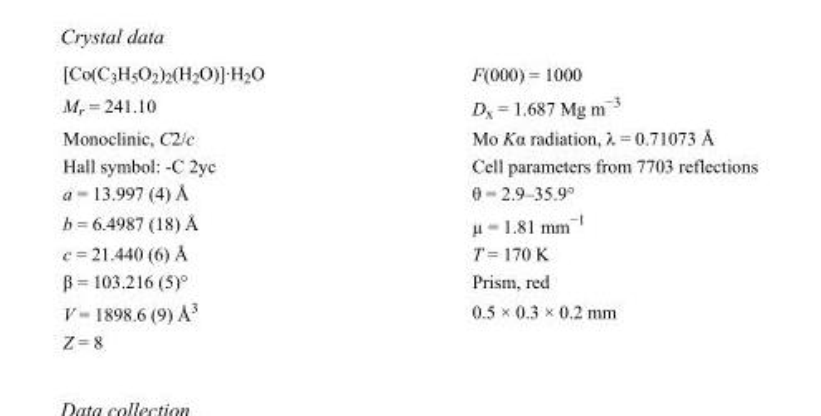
<table><tbody><tr><td>[Co(C<sub>3</sub>H<sub>5</sub>O<sub>2</sub>)<sub>2</sub>(H<sub>2</sub>O)]·H<sub>2</sub>O</td><td>F(000) = 1000</td></tr><tr><td>M<sub>r</sub> = 241.10</td><td>D<sub>x</sub> = 1.687 Mg m<sup>−3</sup></td></tr><tr><td>Monoclinic, C2/c</td><td>Mo Kα radiation, λ = 0.71073 Å</td></tr><tr><td>Hall symbol: -C 2yc</td><td>Cell parameters from 7703 reflections</td></tr><tr><td>a = 13.997 (4) Å</td><td>θ = 2.9–35.9°</td></tr><tr><td>b = 6.4987 (18) Å</td><td>µ = 1.81 mm<sup>−1</sup></td></tr><tr><td>c = 21.440 (6) Å</td><td>T = 170 K</td></tr><tr><td>β = 103.216 (5)°</td><td>Prism, red</td></tr><tr><td>V = 1898.6 (9) Å<sup>3</sup></td><td>0.5 × 0.3 × 0.2 mm</td></tr><tr><td>Z = 8</td><td></td></tr></tbody></table>